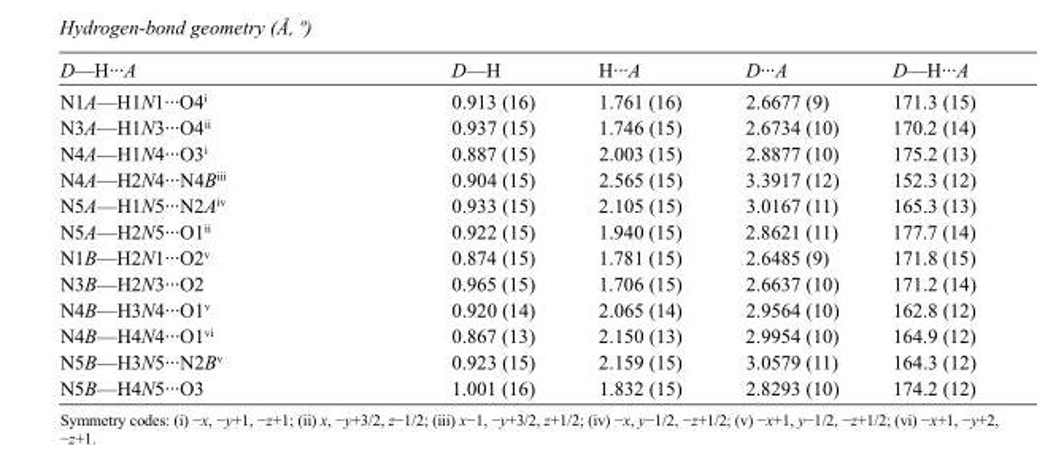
<table><tbody><tr><td>D—H···A</td><td>D—H</td><td>H···A</td><td>D···A</td><td>D—H···A</td></tr><tr><td>N1A—H1N1···O4<sup>i</sup></td><td>0.913 (16)</td><td>1.761 (16)</td><td>2.6677 (9)</td><td>171.3 (15)</td></tr><tr><td>N3A—H1N3···O4<sup>ii</sup></td><td>0.937 (15)</td><td>1.746 (15)</td><td>2.6734 (10)</td><td>170.2 (14)</td></tr><tr><td>N4A—H1N4···O3<sup>i</sup></td><td>0.887 (15)</td><td>2.003 (15)</td><td>2.8877 (10)</td><td>175.2 (13)</td></tr><tr><td>N4A—H2N4···N4B<sup>iii</sup></td><td>0.904 (15)</td><td>2.565 (15)</td><td>3.3917 (12)</td><td>152.3 (12)</td></tr><tr><td>N5A—H1N5···N2A<sup>iv</sup></td><td>0.933 (15)</td><td>2.105 (15)</td><td>3.0167 (11)</td><td>165.3 (13)</td></tr><tr><td>N5A—H2N5···O1<sup>ii</sup></td><td>0.922 (15)</td><td>1.940 (15)</td><td>2.8621 (11)</td><td>177.7 (14)</td></tr><tr><td>N1B—H2N1···O2<sup>v</sup></td><td>0.874 (15)</td><td>1.781 (15)</td><td>2.6485 (9)</td><td>171.8 (15)</td></tr><tr><td>N3B—H2N3···O2</td><td>0.965 (15)</td><td>1.706 (15)</td><td>2.6637 (10)</td><td>171.2 (14)</td></tr><tr><td>N4B—H3N4···O1<sup>v</sup></td><td>0.920 (14)</td><td>2.065 (14)</td><td>2.9564 (10)</td><td>162.8 (12)</td></tr><tr><td>N4B—H4N4···O1<sup>vi</sup></td><td>0.867 (13)</td><td>2.150 (13)</td><td>2.9954 (10)</td><td>164.9 (12)</td></tr><tr><td>N5B—H3N5···N2B<sup>v</sup></td><td>0.923 (15)</td><td>2.159 (15)</td><td>3.0579 (11)</td><td>164.3 (12)</td></tr><tr><td>N5B—H4N5···O3</td><td>1.001 (16)</td><td>1.832 (15)</td><td>2.8293 (10)</td><td>174.2 (12)</td></tr></tbody></table>